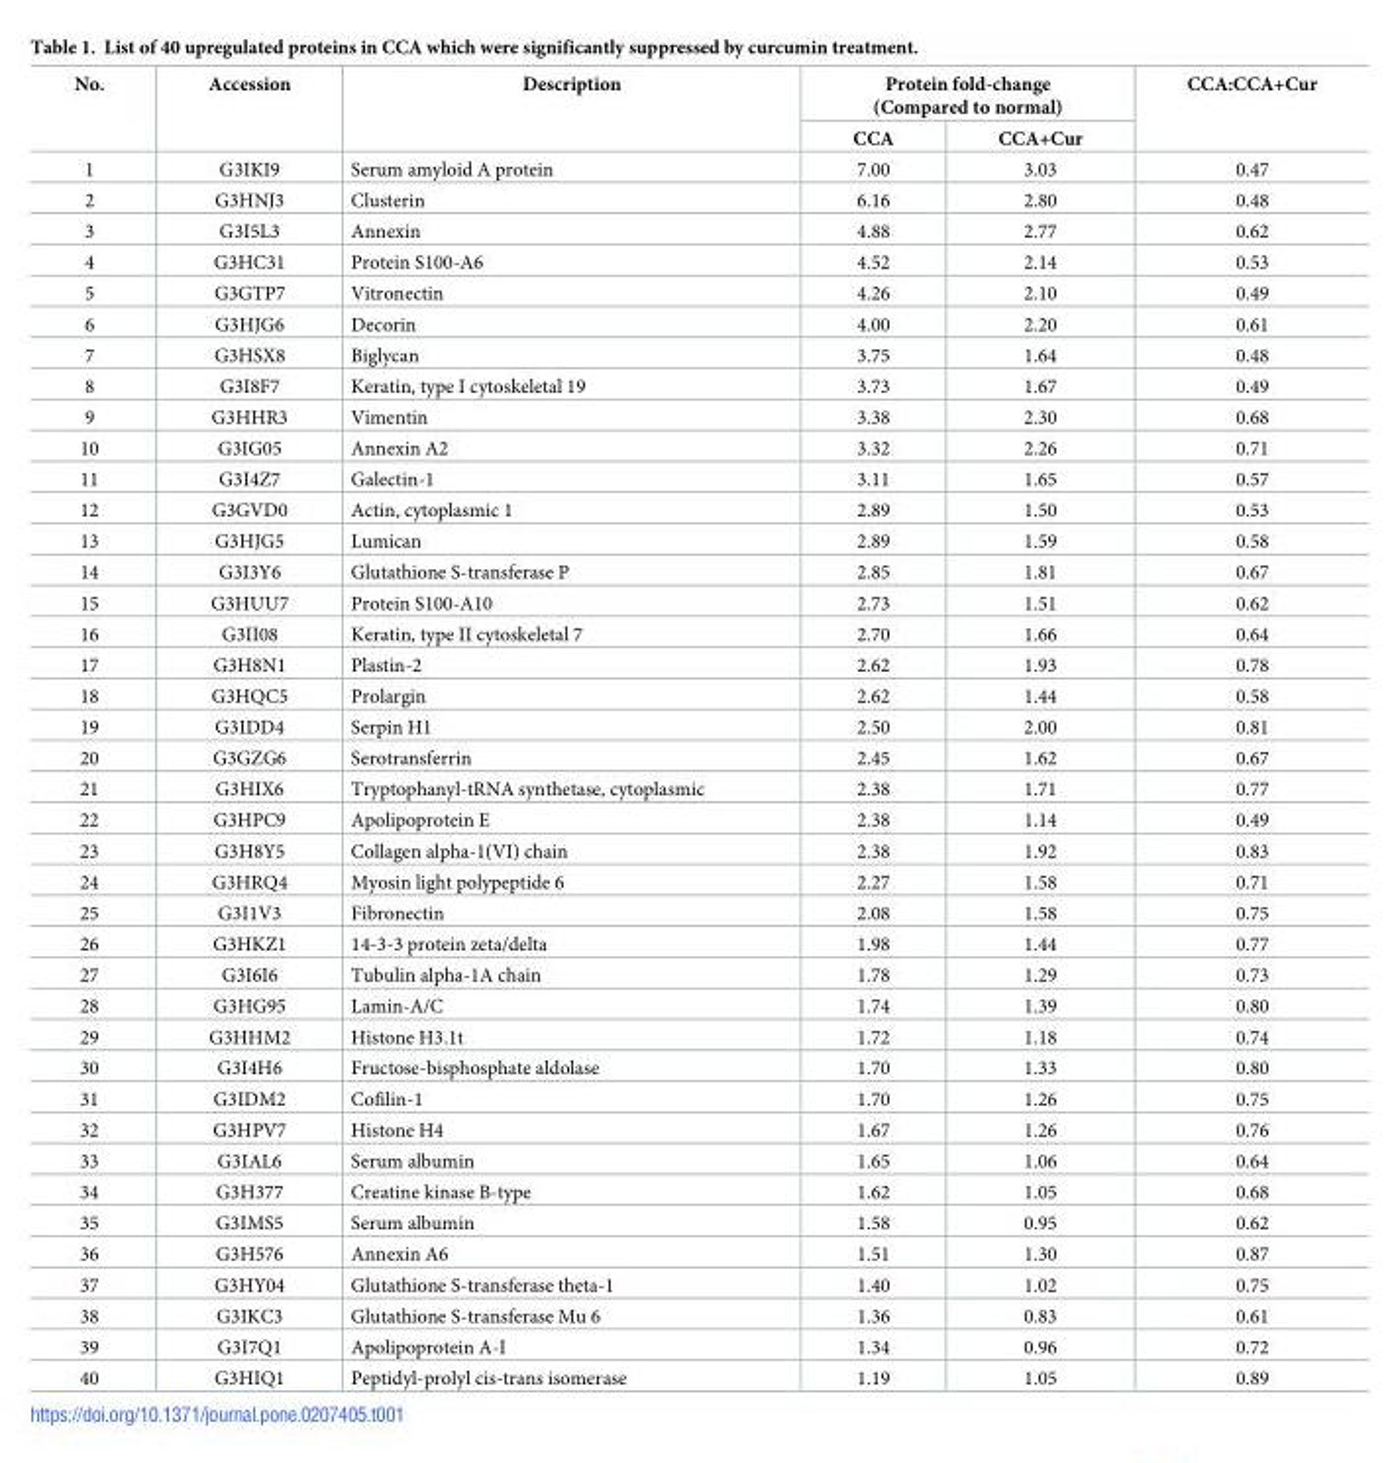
<table><thead><tr><td rowspan="2">No.</td><td rowspan="2">Accession</td><td rowspan="2">Description</td><td colspan="2">Protein fold-change (Compared to normal)</td><td rowspan="2">CCA:CCA+Cur</td></tr><tr><td>CCA</td><td>CCA+Cur</td></tr></thead><tbody><tr><td>1</td><td>G3IKI9</td><td>Serum amyloid A protein</td><td>7.00</td><td>3.03</td><td>0.47</td></tr><tr><td>2</td><td>G3HNJ3</td><td>Clusterin</td><td>6.16</td><td>2.80</td><td>0.48</td></tr><tr><td>3</td><td>G3I5L3</td><td>Annexin</td><td>4.88</td><td>2.77</td><td>0.62</td></tr><tr><td>4</td><td>G3HC31</td><td>Protein S100-A6</td><td>4.52</td><td>2.14</td><td>0.53</td></tr><tr><td>5</td><td>G3GTP7</td><td>Vitronectin</td><td>4.26</td><td>2.10</td><td>0.49</td></tr><tr><td>6</td><td>G3HJG6</td><td>Decorin</td><td>4.00</td><td>2.20</td><td>0.61</td></tr><tr><td>7</td><td>G3HSX8</td><td>Biglycan</td><td>3.75</td><td>1.64</td><td>0.48</td></tr><tr><td>8</td><td>G3I8F7</td><td>Keratin, type I cytoskeletal 19</td><td>3.73</td><td>1.67</td><td>0.49</td></tr><tr><td>9</td><td>G3HHR3</td><td>Vimentin</td><td>3.38</td><td>2.30</td><td>0.68</td></tr><tr><td>10</td><td>G3IG05</td><td>Annexin A2</td><td>3.32</td><td>2.26</td><td>0.71</td></tr><tr><td>11</td><td>G3I4Z7</td><td>Galectin-1</td><td>3.11</td><td>1.65</td><td>0.57</td></tr><tr><td>12</td><td>G3GVD0</td><td>Actin, cytoplasmic 1</td><td>2.89</td><td>1.50</td><td>0.53</td></tr><tr><td>13</td><td>G3HJG5</td><td>Lumican</td><td>2.89</td><td>1.59</td><td>0.58</td></tr><tr><td>14</td><td>G3I3Y6</td><td>Glutathione S-transferase P</td><td>2.85</td><td>1.81</td><td>0.67</td></tr><tr><td>15</td><td>G3HUU7</td><td>Protein S100-A10</td><td>2.73</td><td>1.51</td><td>0.62</td></tr><tr><td>16</td><td>G3II08</td><td>Keratin, type II cytoskeletal 7</td><td>2.70</td><td>1.66</td><td>0.64</td></tr><tr><td>17</td><td>G3H8N1</td><td>Plastin-2</td><td>2.62</td><td>1.93</td><td>0.78</td></tr><tr><td>18</td><td>G3HQC5</td><td>Prolargin</td><td>2.62</td><td>1.44</td><td>0.58</td></tr><tr><td>19</td><td>G3IDD4</td><td>Serpin H1</td><td>2.50</td><td>2.00</td><td>0.81</td></tr><tr><td>20</td><td>G3GZG6</td><td>Serotransferrin</td><td>2.45</td><td>1.62</td><td>0.67</td></tr><tr><td>21</td><td>G3HIX6</td><td>Tryptophanyl-tRNA synthetase, cytoplasmic</td><td>2.38</td><td>1.71</td><td>0.77</td></tr><tr><td>22</td><td>G3HPC9</td><td>Apolipoprotein E</td><td>2.38</td><td>1.14</td><td>0.49</td></tr><tr><td>23</td><td>G3H8Y5</td><td>Collagen alpha-1(VI) chain</td><td>2.38</td><td>1.92</td><td>0.83</td></tr><tr><td>24</td><td>G3HRQ4</td><td>Myosin light polypeptide 6</td><td>2.27</td><td>1.58</td><td>0.71</td></tr><tr><td>25</td><td>G3I1V3</td><td>Fibronectin</td><td>2.08</td><td>1.58</td><td>0.75</td></tr><tr><td>26</td><td>G3HKZ1</td><td>14-3-3 protein zeta/delta</td><td>1.98</td><td>1.44</td><td>0.77</td></tr><tr><td>27</td><td>G3I6I6</td><td>Tubulin alpha-1A chain</td><td>1.78</td><td>1.29</td><td>0.73</td></tr><tr><td>28</td><td>G3HG95</td><td>Lamin-A/C</td><td>1.74</td><td>1.39</td><td>0.80</td></tr><tr><td>29</td><td>G3HHM2</td><td>Histone H3.1t</td><td>1.72</td><td>1.18</td><td>0.74</td></tr><tr><td>30</td><td>G3I4H6</td><td>Fructose-bisphosphate aldolase</td><td>1.70</td><td>1.33</td><td>0.80</td></tr><tr><td>31</td><td>G3IDM2</td><td>Cofilin-1</td><td>1.70</td><td>1.26</td><td>0.75</td></tr><tr><td>32</td><td>G3HPV7</td><td>Histone H4</td><td>1.67</td><td>1.26</td><td>0.76</td></tr><tr><td>33</td><td>G3IAL6</td><td>Serum albumin</td><td>1.65</td><td>1.06</td><td>0.64</td></tr><tr><td>34</td><td>G3H377</td><td>Creatine kinase B-type</td><td>1.62</td><td>1.05</td><td>0.68</td></tr><tr><td>35</td><td>G3IMS5</td><td>Serum albumin</td><td>1.58</td><td>0.95</td><td>0.62</td></tr><tr><td>36</td><td>G3H576</td><td>Annexin A6</td><td>1.51</td><td>1.30</td><td>0.87</td></tr><tr><td>37</td><td>G3HY04</td><td>Glutathione S-transferase theta-1</td><td>1.40</td><td>1.02</td><td>0.75</td></tr><tr><td>38</td><td>G3IKC3</td><td>Glutathione S-transferase Mu 6</td><td>1.36</td><td>0.83</td><td>0.61</td></tr><tr><td>39</td><td>G3I7Q1</td><td>Apolipoprotein A-I</td><td>1.34</td><td>0.96</td><td>0.72</td></tr><tr><td>40</td><td>G3HIQ1</td><td>Peptidyl-prolyl cis-trans isomerase</td><td>1.19</td><td>1.05</td><td>0.89</td></tr></tbody></table>